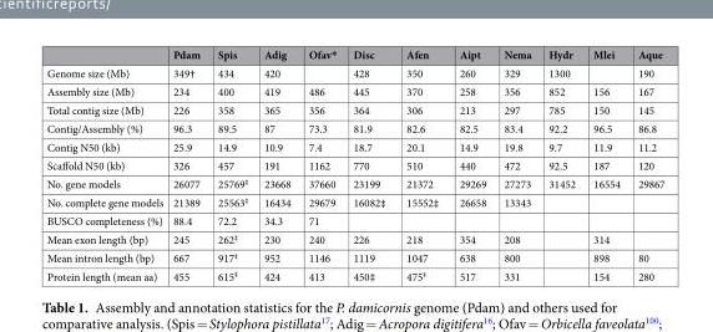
<table><thead><tr><td></td><td>Pdam</td><td>Spis</td><td>Adig</td><td>Ofav*</td><td>Disc</td><td>Afen</td><td>Aipt</td><td>Nema</td><td>Hydr</td><td>Mlei</td><td>Aque</td></tr></thead><tbody><tr><td>Genome size (Mb)</td><td>349†</td><td>434</td><td>420</td><td></td><td>428</td><td>350</td><td>260</td><td>329</td><td>1300</td><td></td><td>190</td></tr><tr><td>Assembly size (Mb)</td><td>234</td><td>400</td><td>419</td><td>486</td><td>445</td><td>370</td><td>258</td><td>356</td><td>852</td><td>156</td><td>167</td></tr><tr><td>Total contig size (Mb)</td><td>226</td><td>358</td><td>365</td><td>356</td><td>364</td><td>306</td><td>213</td><td>297</td><td>785</td><td>150</td><td>145</td></tr><tr><td>Contig/Assembly (%)</td><td>96.3</td><td>89.5</td><td>87</td><td>73.3</td><td>81.9</td><td>82.6</td><td>82.5</td><td>83.4</td><td>92.2</td><td>96.5</td><td>86.8</td></tr><tr><td>Contig N50 (kb)</td><td>25.9</td><td>14.9</td><td>10.9</td><td>7.4</td><td>18.7</td><td>20.1</td><td>14.9</td><td>19.8</td><td>9.7</td><td>11.9</td><td>11.2</td></tr><tr><td>Scaffold N50 (kb)</td><td>326</td><td>457</td><td>191</td><td>1162</td><td>770</td><td>510</td><td>440</td><td>472</td><td>92.5</td><td>187</td><td>120</td></tr><tr><td>No. gene models</td><td>26077</td><td>25769<sup>‡</sup></td><td>23668</td><td>37660</td><td>23199</td><td>21372</td><td>29269</td><td>27273</td><td>31452</td><td>16554</td><td>29867</td></tr><tr><td>No. complete gene models</td><td>21389</td><td>25563<sup>‡</sup></td><td>16434</td><td>29679</td><td>16082‡</td><td>15552‡</td><td>26658</td><td>13343</td><td></td><td></td><td></td></tr><tr><td>BUSCO completeness (%)</td><td>88.4</td><td>72.2</td><td>34.3</td><td>71</td><td></td><td></td><td></td><td></td><td></td><td></td><td></td></tr><tr><td>Mean exon length (bp)</td><td>245</td><td>262<sup>‡</sup></td><td>230</td><td>240</td><td>226</td><td>218</td><td>354</td><td>208</td><td></td><td>314</td><td></td></tr><tr><td>Mean intron length (bp)</td><td>667</td><td>917<sup>‡</sup></td><td>952</td><td>1146</td><td>1119</td><td>1047</td><td>638</td><td>800</td><td></td><td>898</td><td>80</td></tr><tr><td>Protein length (mean aa)</td><td>455</td><td>615<sup>‡</sup></td><td>424</td><td>413</td><td>450‡</td><td>475<sup>‡</sup></td><td>517</td><td>331</td><td></td><td>154</td><td>280</td></tr></tbody></table>